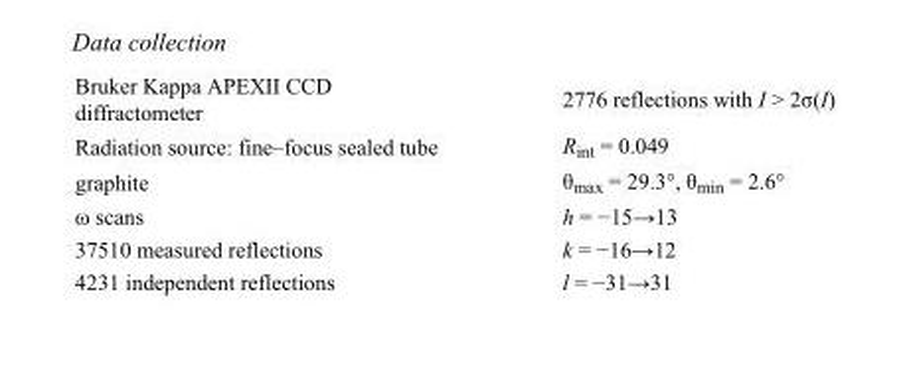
<table><tbody><tr><td>Bruker Kappa APEXII CCD diffractometer</td><td>2776 reflections with I &gt; 2σ(I)</td></tr><tr><td>Radiation source: fine–focus sealed tube</td><td>R<sub>int</sub> = 0.049</td></tr><tr><td>graphite</td><td>θ<sub>max</sub> = 29.3°, θ<sub>min</sub> = 2.6°</td></tr><tr><td>ω scans</td><td>h = −15→13</td></tr><tr><td>37510 measured reflections</td><td>k = −16→12</td></tr><tr><td>4231 independent reflections</td><td>l = −31→31</td></tr></tbody></table>